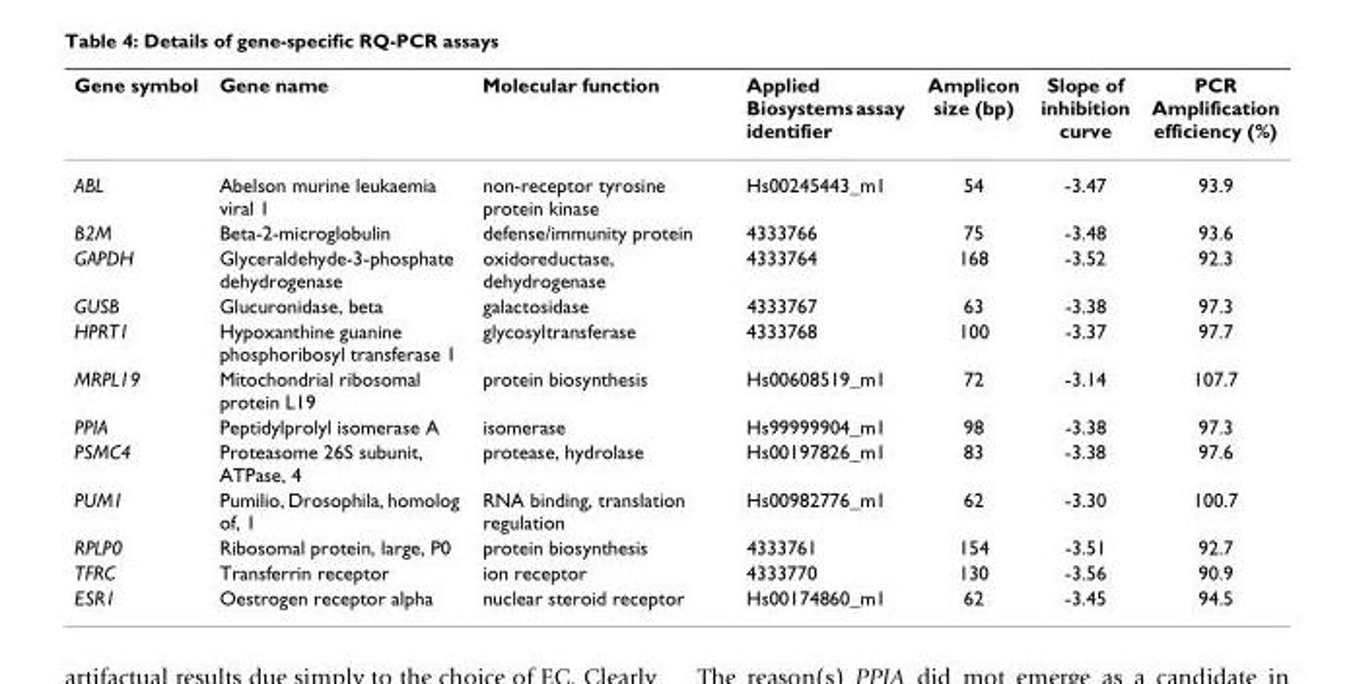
<table><thead><tr><td>Gene symbol</td><td>Gene name</td><td>Molecular function</td><td>Applied Biosystems assay identifier</td><td>Amplicon size (bp)</td><td>Slope of inhibition curve</td><td>PCR Amplification efficiency (%)</td></tr></thead><tbody><tr><td>ABL</td><td>Abelson murine leukaemia viral 1</td><td>non-receptor tyrosine protein kinase</td><td>Hs00245443_m1</td><td>54</td><td>-3.47</td><td>93.9</td></tr><tr><td>B2M</td><td>Beta-2-microglobulin</td><td>defense/immunity protein</td><td>4333766</td><td>75</td><td>-3.48</td><td>93.6</td></tr><tr><td>GAPDH</td><td>Glyceraldehyde-3-phosphate dehydrogenase</td><td>oxidoreductase, dehydrogenase</td><td>4333764</td><td>168</td><td>-3.52</td><td>92.3</td></tr><tr><td>GUSB</td><td>Glucuronidase, beta</td><td>galactosidase</td><td>4333767</td><td>63</td><td>-3.38</td><td>97.3</td></tr><tr><td>HPRT1</td><td>Hypoxanthine guanine phosphoribosyl transferase 1</td><td>glycosyltransferase</td><td>4333768</td><td>100</td><td>-3.37</td><td>97.7</td></tr><tr><td>MRPL19</td><td>Mitochondrial ribosomal protein L19</td><td>protein biosynthesis</td><td>Hs00608519_m1</td><td>72</td><td>-3.14</td><td>107.7</td></tr><tr><td>PPIA</td><td>Peptidylprolyl isomerase A</td><td>isomerase</td><td>Hs99999904_m1</td><td>98</td><td>-3.38</td><td>97.3</td></tr><tr><td>PSMC4</td><td>Proteasome 26S subunit, ATPase, 4</td><td>protease, hydrolase</td><td>Hs00197826_m1</td><td>83</td><td>-3.38</td><td>97.6</td></tr><tr><td>PUM1</td><td>Pumilio, Drosophila, homolog of, 1</td><td>RNA binding, translation regulation</td><td>Hs00982776_m1</td><td>62</td><td>-3.30</td><td>100.7</td></tr><tr><td>RPLP0</td><td>Ribosomal protein, large, P0</td><td>protein biosynthesis</td><td>4333761</td><td>154</td><td>-3.51</td><td>92.7</td></tr><tr><td>TFRC</td><td>Transferrin receptor</td><td>ion receptor</td><td>4333770</td><td>130</td><td>-3.56</td><td>90.9</td></tr><tr><td>ESR1</td><td>Oestrogen receptor alpha</td><td>nuclear steroid receptor</td><td>Hs00174860_m1</td><td>62</td><td>-3.45</td><td>94.5</td></tr></tbody></table>